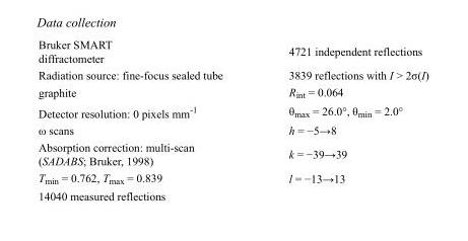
<table><tbody><tr><td>Bruker SMART diffractometer</td><td>4721 independent reflections</td></tr><tr><td>Radiation source: fine-focus sealed tube</td><td>3839 reflections with I &gt; 2σ(I)</td></tr><tr><td>graphite</td><td>R<sub>int</sub> = 0.064</td></tr><tr><td>Detector resolution: 0 pixels mm<sup>-1</sup></td><td>θ<sub>max</sub> = 26.0°, θ<sub>min</sub> = 2.0°</td></tr><tr><td>ω scans</td><td>h = −5→8</td></tr><tr><td>Absorption correction: multi-scan (SADABS; Bruker, 1998)</td><td>k = −39→39</td></tr><tr><td>T<sub>min</sub> = 0.762, T<sub>max</sub> = 0.839</td><td>l = −13→13</td></tr><tr><td>14040 measured reflections</td><td></td></tr></tbody></table>